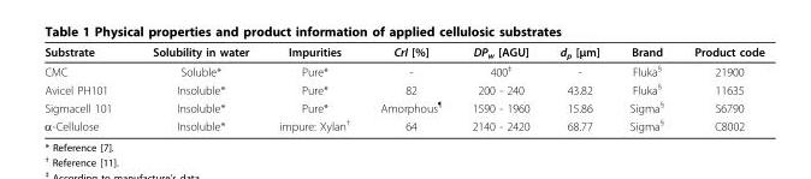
<table><thead><tr><td>Substrate</td><td>Solubility in water</td><td>Impurities</td><td>CrI [%]</td><td>DP<sub>w</sub> [AGU]</td><td>d<sub>p</sub> [μm]</td><td>Brand</td><td>Product code</td></tr></thead><tbody><tr><td>CMC</td><td>Soluble*</td><td>Pure*</td><td>-</td><td>400<sup>‡</sup></td><td>-</td><td>Fluka<sup>§</sup></td><td>21900</td></tr><tr><td>Avicel PH101</td><td>Insoluble*</td><td>Pure*</td><td>82</td><td>200 - 240</td><td>43.82</td><td>Fluka<sup>§</sup></td><td>11635</td></tr><tr><td>Sigmacell 101</td><td>Insoluble*</td><td>Pure*</td><td>Amorphous<sup>¶</sup></td><td>1590 - 1960</td><td>15.86</td><td>Sigma<sup>§</sup></td><td>S6790</td></tr><tr><td>α-Cellulose</td><td>Insoluble*</td><td>impure: Xylan<sup>†</sup></td><td>64</td><td>2140 - 2420</td><td>68.77</td><td>Sigma<sup>§</sup></td><td>C8002</td></tr></tbody></table>